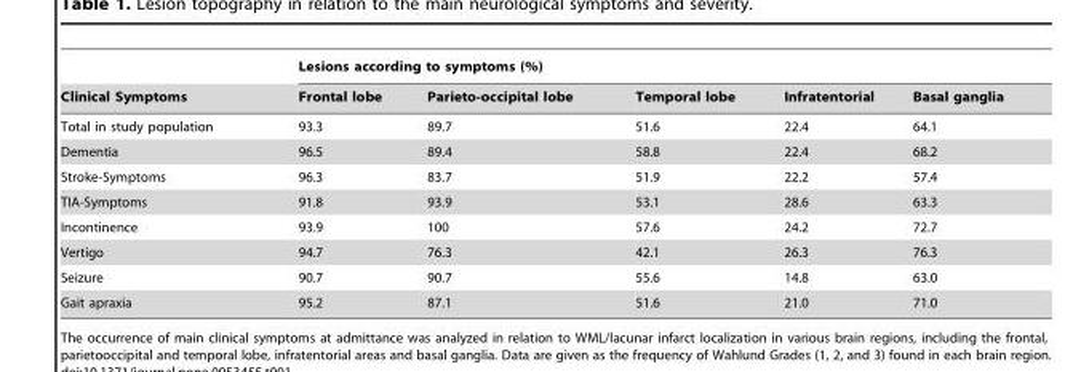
<table><thead><tr><td rowspan="2">Clinical Symptoms</td><td colspan="5">Lesions according to symptoms (%)</td></tr><tr><td>Frontal lobe</td><td>Parieto-occipital lobe</td><td>Temporal lobe</td><td>Infratentorial</td><td>Basal ganglia</td></tr></thead><tbody><tr><td>Total in study population</td><td>93.3</td><td>89.7</td><td>51.6</td><td>22.4</td><td>64.1</td></tr><tr><td>Dementia</td><td>96.5</td><td>89.4</td><td>58.8</td><td>22.4</td><td>68.2</td></tr><tr><td>Stroke-Symptoms</td><td>96.3</td><td>83.7</td><td>51.9</td><td>22.2</td><td>57.4</td></tr><tr><td>TIA-Symptoms</td><td>91.8</td><td>93.9</td><td>53.1</td><td>28.6</td><td>63.3</td></tr><tr><td>Incontinence</td><td>93.9</td><td>100</td><td>57.6</td><td>24.2</td><td>72.7</td></tr><tr><td>Vertigo</td><td>94.7</td><td>76.3</td><td>42.1</td><td>26.3</td><td>76.3</td></tr><tr><td>Seizure</td><td>90.7</td><td>90.7</td><td>55.6</td><td>14.8</td><td>63.0</td></tr><tr><td>Gait apraxia</td><td>95.2</td><td>87.1</td><td>51.6</td><td>21.0</td><td>71.0</td></tr></tbody></table>